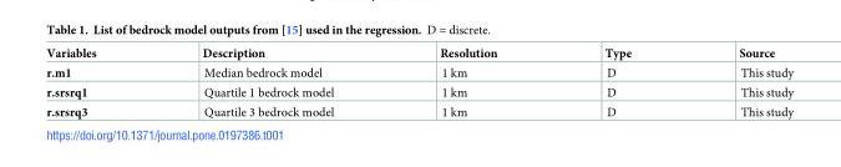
<table><thead><tr><td>Variables</td><td>Description</td><td>Resolution</td><td>Type</td><td>Source</td></tr></thead><tbody><tr><td>r.m1</td><td>Median bedrock model</td><td>1 km</td><td>D</td><td>This study</td></tr><tr><td>r.srsrq1</td><td>Quartile 1 bedrock model</td><td>1 km</td><td>D</td><td>This study</td></tr><tr><td>r.srsrq3</td><td>Quartile 3 bedrock model</td><td>1 km</td><td>D</td><td>This study</td></tr></tbody></table>